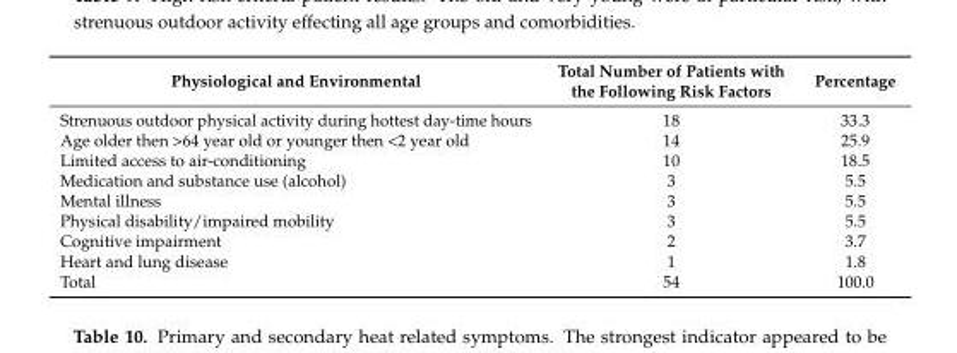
<table><thead><tr><td>Physiological and Environmental</td><td>Total Number of Patients with the Following Risk Factors</td><td>Percentage</td></tr></thead><tbody><tr><td>Strenuous outdoor physical activity during hottest day-time hours</td><td>18</td><td>33.3</td></tr><tr><td>Age older then &gt;64 year old or younger then &lt;2 year old</td><td>14</td><td>25.9</td></tr><tr><td>Limited access to air-conditioning</td><td>10</td><td>18.5</td></tr><tr><td>Medication and substance use (alcohol)</td><td>3</td><td>5.5</td></tr><tr><td>Mental illness</td><td>3</td><td>5.5</td></tr><tr><td>Physical disability/impaired mobility</td><td>3</td><td>5.5</td></tr><tr><td>Cognitive impairment</td><td>2</td><td>3.7</td></tr><tr><td>Heart and lung disease</td><td>1</td><td>1.8</td></tr><tr><td>Total</td><td>54</td><td>100.0</td></tr></tbody></table>